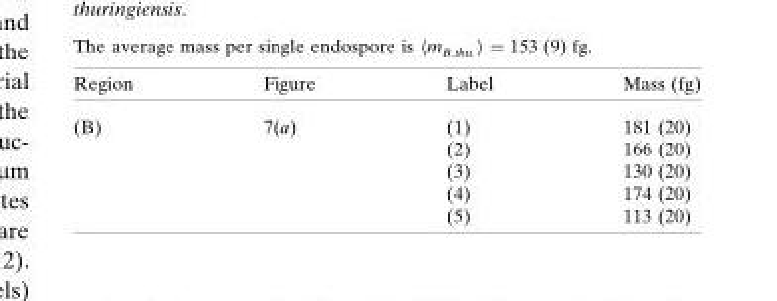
<table><thead><tr><td>Region</td><td>Figure</td><td>Label</td><td>Mass (fg)</td></tr></thead><tbody><tr><td rowspan="5">(B)</td><td rowspan="5">7(a)</td><td>(1)</td><td>181 (20)</td></tr><tr><td>(2)</td><td>166 (20)</td></tr><tr><td>(3)</td><td>130 (20)</td></tr><tr><td>(4)</td><td>174 (20)</td></tr><tr><td>(5)</td><td>113 (20)</td></tr></tbody></table>